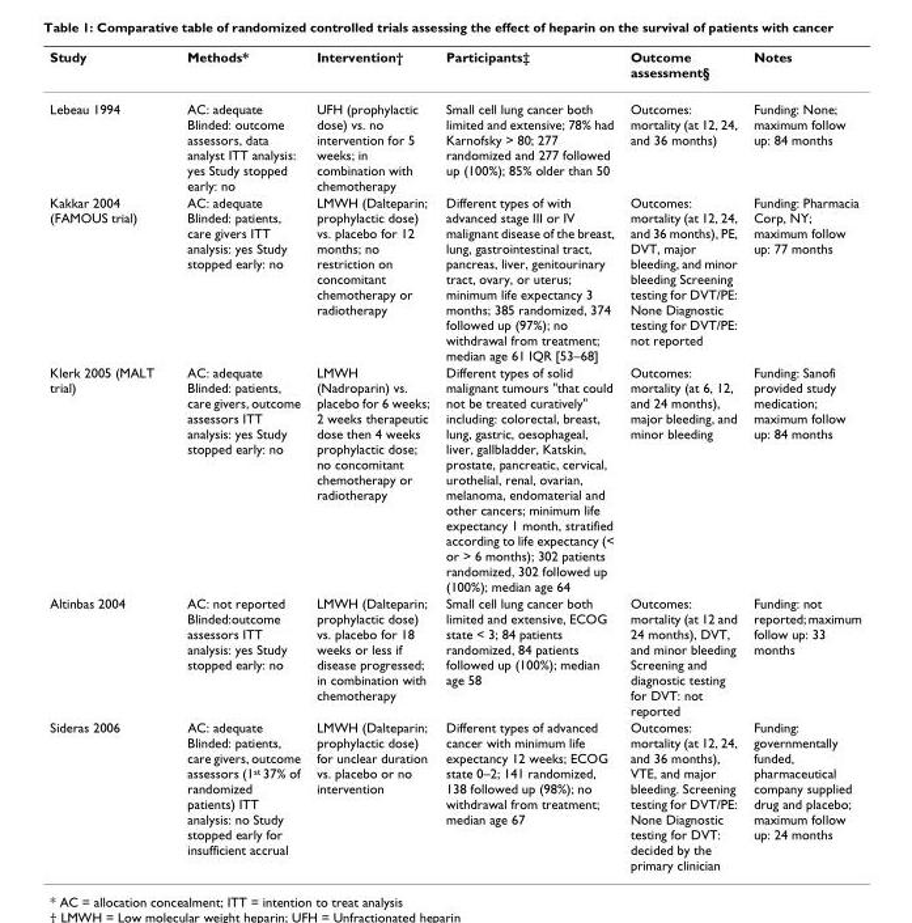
<table><thead><tr><td>Study</td><td>Methods*</td><td>Intervention†</td><td>Participants‡</td><td>Outcome assessment§</td><td>Notes</td></tr></thead><tbody><tr><td>Lebeau 1994</td><td>AC: adequate Blinded: outcome assessors, data analyst ITT analysis: yes Study stopped early: no</td><td>UFH (prophylactic dose) vs. no intervention for 5 weeks; in combination with chemotherapy</td><td>Small cell lung cancer both limited and extensive; 78% had Karnofsky &gt; 80; 277 randomized and 277 followed up (100%); 85% older than 50</td><td>Outcomes: mortality (at 12, 24, and 36 months)</td><td>Funding: None; maximum follow up: 84 months</td></tr><tr><td>Kakkar 2004 (FAMOUS trial)</td><td>AC: adequate Blinded: patients, care givers ITT analysis: yes Study stopped early: no</td><td>LMWH (Dalteparin; prophylactic dose) vs. placebo for 12 months; no restriction on concomitant chemotherapy or radiotherapy</td><td>Different types of with advanced stage III or IV malignant disease of the breast, lung, gastrointestinal tract, pancreas, liver, genitourinary tract, ovary, or uterus; minimum life expectancy 3 months; 385 randomized, 374 followed up (97%); no withdrawal from treatment; median age 61 IQR [53–68]</td><td>Outcomes: mortality (at 12, 24, and 36 months), PE, DVT, major bleeding, and minor bleeding Screening testing for DVT/PE: None Diagnostic testing for DVT/PE: not reported</td><td>Funding: Pharmacia Corp, NY; maximum follow up: 77 months</td></tr><tr><td>Klerk 2005 (MALT trial)</td><td>AC: adequate Blinded: patients, care givers, outcome assessors ITT analysis: yes Study stopped early: no</td><td>LMWH (Nadroparin) vs. placebo for 6 weeks; 2 weeks therapeutic dose then 4 weeks prophylactic dose; no concomitant chemotherapy or radiotherapy</td><td>Different types of solid malignant tumours &quot;that could not be treated curatively&quot; including: colorectal, breast, lung, gastric, oesophageal, liver, gallbladder, Katskin, prostate, pancreatic, cervical, urothelial, renal, ovarian, melanoma, endomaterial and other cancers; minimum life expectancy 1 month, stratified according to life expectancy (&lt; or &gt; 6 months); 302 patients randomized, 302 followed up (100%); median age 64</td><td>Outcomes: mortality (at 6, 12, and 24 months), major bleeding, and minor bleeding</td><td>Funding: Sanofi provided study medication; maximum follow up: 84 months</td></tr><tr><td>Altinbas 2004</td><td>AC: not reported Blinded:outcome assessors ITT analysis: yes Study stopped early: no</td><td>LMWH (Dalteparin; prophylactic dose) vs. placebo for 18 weeks or less if disease progressed; in combination with chemotherapy</td><td>Small cell lung cancer both limited and extensive, ECOG state &lt; 3; 84 patients randomized, 84 patients followed up (100%); median age 58</td><td>Outcomes: mortality (at 12 and 24 months), DVT, and minor bleeding Screening and diagnostic testing for DVT: not reported</td><td>Funding: not reported; maximum follow up: 33 months</td></tr><tr><td>Sideras 2006</td><td>AC: adequate Blinded: patients, care givers, outcome assessors (1<sup>st</sup> 37% of randomized patients) ITT analysis: no Study stopped early for insufficient accrual</td><td>LMWH (Dalteparin; prophylactic dose) for unclear duration vs. placebo or no intervention</td><td>Different types of advanced cancer with minimum life expectancy 12 weeks; ECOG state 0–2; 141 randomized, 138 followed up (98%); no withdrawal from treatment; median age 67</td><td>Outcomes: mortality (at 12, 24, and 36 months), VTE, and major bleeding. Screening testing for DVT/PE: None Diagnostic testing for DVT: decided by the primary clinician</td><td>Funding: governmentally funded, pharmaceutical company supplied drug and placebo; maximum follow up: 24 months</td></tr></tbody></table>